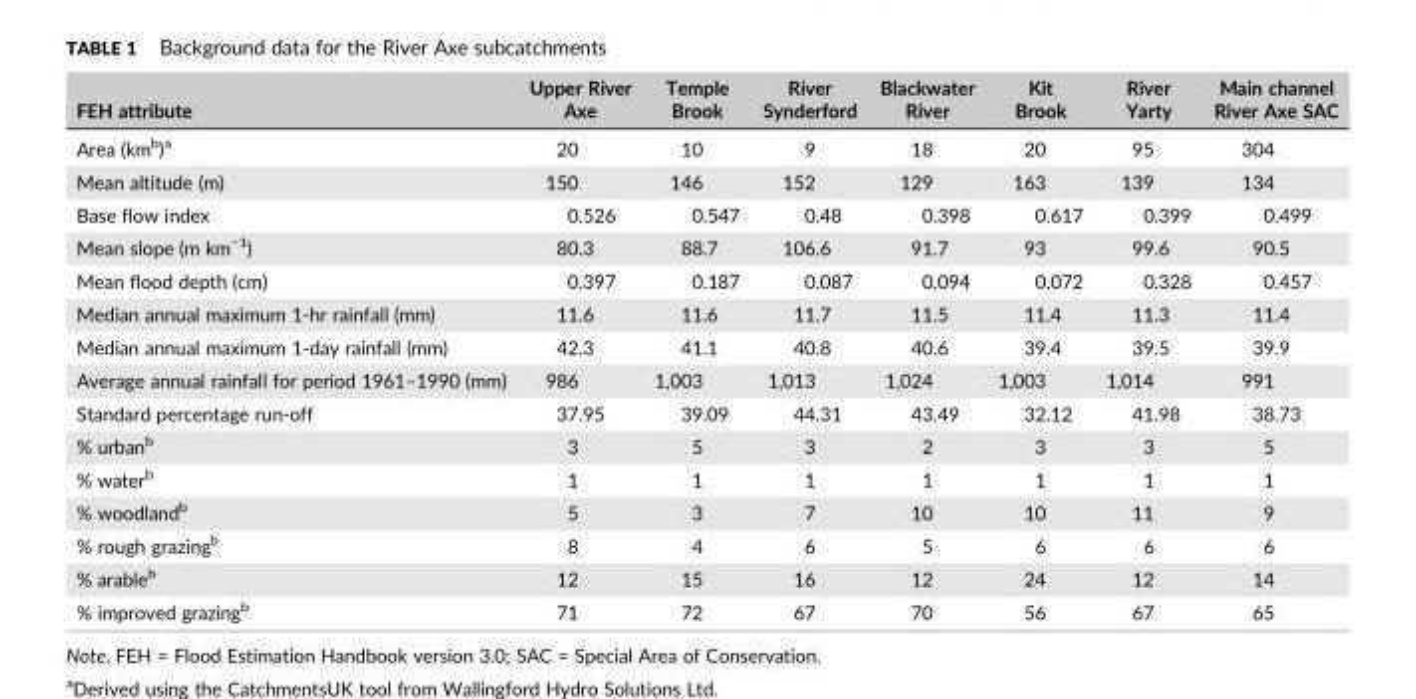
<table><thead><tr><td>FEH attribute</td><td>Upper River Axe</td><td>Temple Brook</td><td>River Synderford</td><td>Blackwater River</td><td>Kit Brook</td><td>River Yarty</td><td>Main channel River Axe SAC</td></tr></thead><tbody><tr><td>Area (km<sup>b</sup>)<sup>a</sup></td><td>20</td><td>10</td><td>9</td><td>18</td><td>20</td><td>95</td><td>304</td></tr><tr><td>Mean altitude (m)</td><td>150</td><td>146</td><td>152</td><td>129</td><td>163</td><td>139</td><td>134</td></tr><tr><td>Base flow index</td><td>0.526</td><td>0.547</td><td>0.48</td><td>0.398</td><td>0.617</td><td>0.399</td><td>0.499</td></tr><tr><td>Mean slope (m km<sup>−1</sup>)</td><td>80.3</td><td>88.7</td><td>106.6</td><td>91.7</td><td>93</td><td>99.6</td><td>90.5</td></tr><tr><td>Mean flood depth (cm)</td><td>0.397</td><td>0.187</td><td>0.087</td><td>0.094</td><td>0.072</td><td>0.328</td><td>0.457</td></tr><tr><td>Median annual maximum 1‐hr rainfall (mm)</td><td>11.6</td><td>11.6</td><td>11.7</td><td>11.5</td><td>11.4</td><td>11.3</td><td>11.4</td></tr><tr><td>Median annual maximum 1‐day rainfall (mm)</td><td>42.3</td><td>41.1</td><td>40.8</td><td>40.6</td><td>39.4</td><td>39.5</td><td>39.9</td></tr><tr><td>Average annual rainfall for period 1961–1990 (mm)</td><td>986</td><td>1,003</td><td>1,013</td><td>1,024</td><td>1,003</td><td>1,014</td><td>991</td></tr><tr><td>Standard percentage run‐off</td><td>37.95</td><td>39.09</td><td>44.31</td><td>43.49</td><td>32.12</td><td>41.98</td><td>38.73</td></tr><tr><td>% urban<sup>b</sup></td><td>3</td><td>5</td><td>3</td><td>2</td><td>3</td><td>3</td><td>5</td></tr><tr><td>% water<sup>b</sup></td><td>1</td><td>1</td><td>1</td><td>1</td><td>1</td><td>1</td><td>1</td></tr><tr><td>% woodland<sup>b</sup></td><td>5</td><td>3</td><td>7</td><td>10</td><td>10</td><td>11</td><td>9</td></tr><tr><td>% rough grazing<sup>b</sup></td><td>8</td><td>4</td><td>6</td><td>5</td><td>6</td><td>6</td><td>6</td></tr><tr><td>% arable<sup>b</sup></td><td>12</td><td>15</td><td>16</td><td>12</td><td>24</td><td>12</td><td>14</td></tr><tr><td>% improved grazing<sup>b</sup></td><td>71</td><td>72</td><td>67</td><td>70</td><td>56</td><td>67</td><td>65</td></tr></tbody></table>